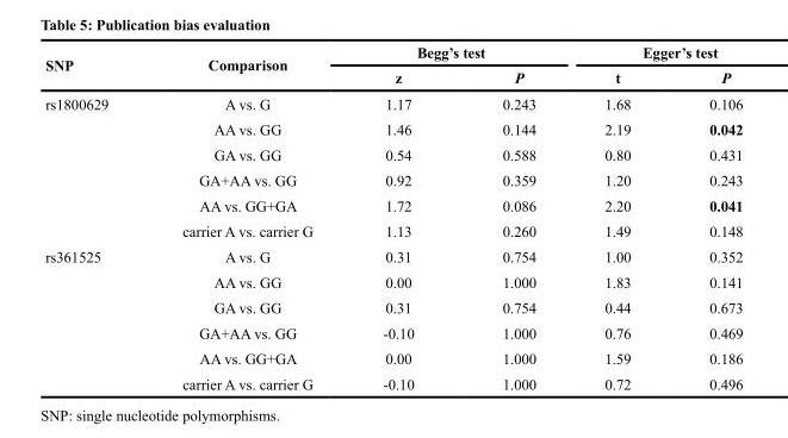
<table><thead><tr><td rowspan="2">SNP</td><td rowspan="2">Comparison</td><td colspan="2">Begg’s test</td><td colspan="2">Egger’s test</td></tr><tr><td>z</td><td>P</td><td>t</td><td>P</td></tr></thead><tbody><tr><td rowspan="6">rs1800629</td><td>A vs. G</td><td>1.17</td><td>0.243</td><td>1.68</td><td>0.106</td></tr><tr><td>AA vs. GG</td><td>1.46</td><td>0.144</td><td>2.19</td><td>0.042</td></tr><tr><td>GA vs. GG</td><td>0.54</td><td>0.588</td><td>0.80</td><td>0.431</td></tr><tr><td>GA+AA vs. GG</td><td>0.92</td><td>0.359</td><td>1.20</td><td>0.243</td></tr><tr><td>AA vs. GG+GA</td><td>1.72</td><td>0.086</td><td>2.20</td><td>0.041</td></tr><tr><td>carrier A vs. carrier G</td><td>1.13</td><td>0.260</td><td>1.49</td><td>0.148</td></tr><tr><td rowspan="6">rs361525</td><td>A vs. G</td><td>0.31</td><td>0.754</td><td>1.00</td><td>0.352</td></tr><tr><td>AA vs. GG</td><td>0.00</td><td>1.000</td><td>1.83</td><td>0.141</td></tr><tr><td>GA vs. GG</td><td>0.31</td><td>0.754</td><td>0.44</td><td>0.673</td></tr><tr><td>GA+AA vs. GG</td><td>-0.10</td><td>1.000</td><td>0.76</td><td>0.469</td></tr><tr><td>AA vs. GG+GA</td><td>0.00</td><td>1.000</td><td>1.59</td><td>0.186</td></tr><tr><td>carrier A vs. carrier G</td><td>-0.10</td><td>1.000</td><td>0.72</td><td>0.496</td></tr></tbody></table>